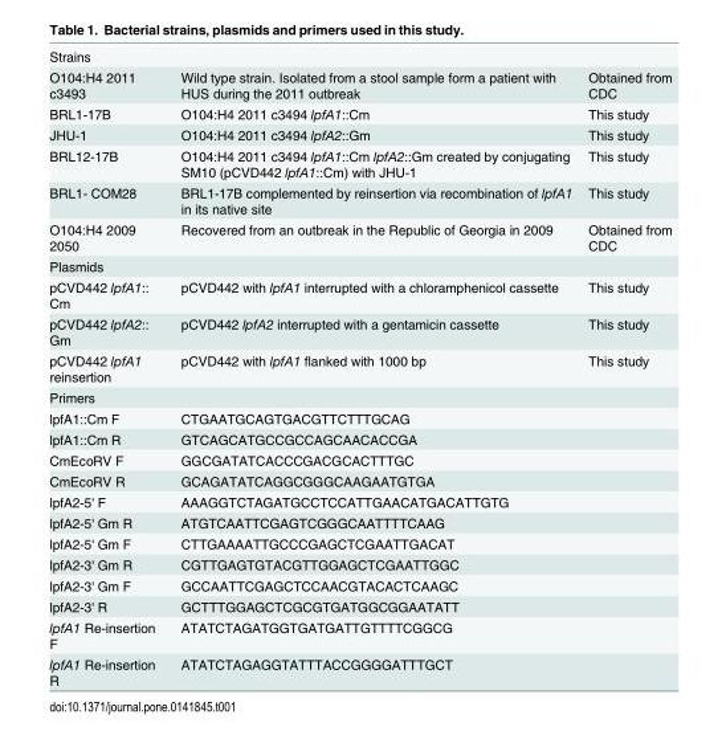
<table><tbody><tr><td colspan="3">Strains</td></tr><tr><td>O104:H4 2011 c3493</td><td>Wild type strain. Isolated from a stool sample form a patient with HUS during the 2011 outbreak</td><td>Obtained from CDC</td></tr><tr><td>BRL1-17B</td><td>O104:H4 2011 c3494 lpfA1::Cm</td><td>This study</td></tr><tr><td>JHU-1</td><td>O104:H4 2011 c3494 lpfA2::Gm</td><td>This study</td></tr><tr><td>BRL12-17B</td><td>O104:H4 2011 c3494 lpfA1::Cm lpfA2::Gm created by conjugating SM10 (pCVD442 lpfA1::Cm) with JHU-1</td><td>This study</td></tr><tr><td>BRL1- COM28</td><td>BRL1-17B complemented by reinsertion via recombination of lpfA1 in its native site</td><td>This study</td></tr><tr><td>O104:H4 2009 2050</td><td>Recovered from an outbreak in the Republic of Georgia in 2009</td><td>Obtained from CDC</td></tr><tr><td colspan="3">Plasmids</td></tr><tr><td>pCVD442 lpfA1:: Cm</td><td>pCVD442 with lpfA1 interrupted with a chloramphenicol cassette</td><td>This study</td></tr><tr><td>pCVD442 lpfA2:: Gm</td><td>pCVD442 lpfA2 interrupted with a gentamicin cassette</td><td>This study</td></tr><tr><td>pCVD442 lpfA1 reinsertion</td><td>pCVD442 with lpfA1 flanked with 1000 bp</td><td>This study</td></tr><tr><td colspan="3">Primers</td></tr><tr><td>lpfA1::Cm F</td><td colspan="2">CTGAATGCAGTGACGTTCTTTGCAG</td></tr><tr><td>lpfA1::Cm R</td><td colspan="2">GTCAGCATGCCGCCAGCAACACCGA</td></tr><tr><td>CmEcoRV F</td><td colspan="2">GGCGATATCACCCGACGCACTTTGC</td></tr><tr><td>CmEcoRV R</td><td colspan="2">GCAGATATCAGGCGGGCAAGAATGTGA</td></tr><tr><td>lpfA2-5&#x27; F</td><td colspan="2">AAAGGTCTAGATGCCTCCATTGAACATGACATTGTG</td></tr><tr><td>lpfA2-5&#x27; Gm R</td><td colspan="2">ATGTCAATTCGAGTCGGGCAATTTTCAAG</td></tr><tr><td>lpfA2-5&#x27; Gm F</td><td colspan="2">CTTGAAAATTGCCCGAGCTCGAATTGACAT</td></tr><tr><td>lpfA2-3&#x27; Gm R</td><td colspan="2">CGTTGAGTGTACGTTGGAGCTCGAATTGGC</td></tr><tr><td>lpfA2-3&#x27; Gm F</td><td colspan="2">GCCAATTCGAGCTCCAACGTACACTCAAGC</td></tr><tr><td>lpfA2-3&#x27; R</td><td colspan="2">GCTTTGGAGCTCGCGTGATGGCGGAATATT</td></tr><tr><td>lpfA1 Re-insertion F</td><td colspan="2">ATATCTAGATGGTGATGATTGTTTTCGGCG</td></tr><tr><td>lpfA1 Re-insertion R</td><td colspan="2">ATATCTAGAGGTATTTACCGGGGATTTGCT</td></tr></tbody></table>